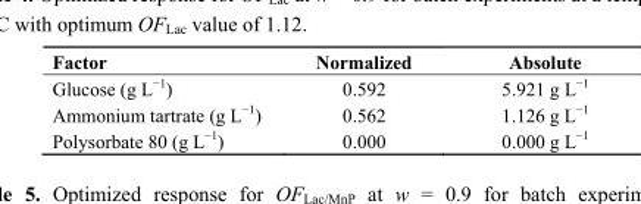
<table><thead><tr><td>Factor</td><td>Normalized</td><td>Absolute</td></tr></thead><tbody><tr><td>Glucose (g L<sup>−1</sup>)</td><td>0.592</td><td>5.921 g L<sup>−1</sup></td></tr><tr><td>Ammonium tartrate (g L<sup>−1</sup>)</td><td>0.562</td><td>1.126 g L<sup>−1</sup></td></tr><tr><td>Polysorbate 80 (g L<sup>−1</sup>)</td><td>0.000</td><td>0.000 g L<sup>−1</sup></td></tr></tbody></table>